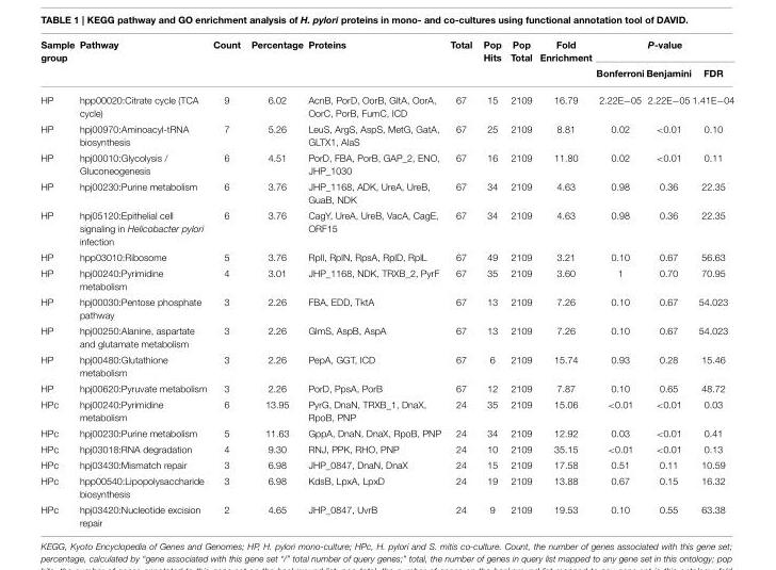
<table><thead><tr><td rowspan="2">Sample group</td><td rowspan="2">Pathway</td><td rowspan="2">Count</td><td rowspan="2">Percentage</td><td rowspan="2">Proteins</td><td rowspan="2">Total</td><td rowspan="2">Pop Hits</td><td rowspan="2">Pop Total</td><td rowspan="2">Fold Enrichment</td><td colspan="3">P-value</td></tr><tr><td>Bonferroni</td><td>Benjamini</td><td>FDR</td></tr></thead><tbody><tr><td>HP</td><td>hpp00020:Citrate cycle (TCA cycle)</td><td>9</td><td>6.02</td><td>AcnB, PorD, OorB, GltA, OorA, OorC, PorB, FumC, ICD</td><td>67</td><td>15</td><td>2109</td><td>16.79</td><td>2.22E−05</td><td>2.22E−05</td><td>1.41E−04</td></tr><tr><td>HP</td><td>hpj00970:Aminoacyl-tRNA biosynthesis</td><td>7</td><td>5.26</td><td>LeuS, ArgS, AspS, MetG, GatA, GLTX1, AlaS</td><td>67</td><td>25</td><td>2109</td><td>8.81</td><td>0.02</td><td>&lt;0.01</td><td>0.10</td></tr><tr><td>HP</td><td>hpj00010:Glycolysis / Gluconeogenesis</td><td>6</td><td>4.51</td><td>PorD, FBA, PorB, GAP_2, ENO, JHP_1030</td><td>67</td><td>16</td><td>2109</td><td>11.80</td><td>0.02</td><td>&lt;0.01</td><td>0.11</td></tr><tr><td>HP</td><td>hpj00230:Purine metabolism</td><td>6</td><td>3.76</td><td>JHP_1168, ADK, UreA, UreB, GuaB, NDK</td><td>67</td><td>34</td><td>2109</td><td>4.63</td><td>0.98</td><td>0.36</td><td>22.35</td></tr><tr><td>HP</td><td>hpj05120:Epithelial cell signaling in Helicobacter pylori infection</td><td>6</td><td>3.76</td><td>CagY, UreA, UreB, VacA, CagE, ORF15</td><td>67</td><td>34</td><td>2109</td><td>4.63</td><td>0.98</td><td>0.36</td><td>22.35</td></tr><tr><td>HP</td><td>hpp03010:Ribosome</td><td>5</td><td>3.76</td><td>RplI, RplN, RpsA, RplD, RplL</td><td>67</td><td>49</td><td>2109</td><td>3.21</td><td>0.10</td><td>0.67</td><td>56.63</td></tr><tr><td>HP</td><td>hpj00240:Pyrimidine metabolism</td><td>4</td><td>3.01</td><td>JHP_1168, NDK, TRXB_2, PyrF</td><td>67</td><td>35</td><td>2109</td><td>3.60</td><td>1</td><td>0.70</td><td>70.95</td></tr><tr><td>HP</td><td>hpj00030:Pentose phosphate pathway</td><td>3</td><td>2.26</td><td>FBA, EDD, TktA</td><td>67</td><td>13</td><td>2109</td><td>7.26</td><td>0.10</td><td>0.67</td><td>54.023</td></tr><tr><td>HP</td><td>hpj00250:Alanine, aspartate and glutamate metabolism</td><td>3</td><td>2.26</td><td>GlmS, AspB, AspA</td><td>67</td><td>13</td><td>2109</td><td>7.26</td><td>0.10</td><td>0.67</td><td>54.023</td></tr><tr><td>HP</td><td>hpj00480:Glutathione metabolism</td><td>3</td><td>2.26</td><td>PepA, GGT, ICD</td><td>67</td><td>6</td><td>2109</td><td>15.74</td><td>0.93</td><td>0.28</td><td>15.46</td></tr><tr><td>HP</td><td>hpj00620:Pyruvate metabolism</td><td>3</td><td>2.26</td><td>PorD, PpsA, PorB</td><td>67</td><td>12</td><td>2109</td><td>7.87</td><td>0.10</td><td>0.65</td><td>48.72</td></tr><tr><td>HPc</td><td>hpj00240:Pyrimidine metabolism</td><td>6</td><td>13.95</td><td>PyrG, DnaN, TRXB_1, DnaX, RpoB, PNP</td><td>24</td><td>35</td><td>2109</td><td>15.06</td><td>&lt;0.01</td><td>&lt;0.01</td><td>0.03</td></tr><tr><td>HPc</td><td>hpj00230:Purine metabolism</td><td>5</td><td>11.63</td><td>GppA, DnaN, DnaX, RpoB, PNP</td><td>24</td><td>34</td><td>2109</td><td>12.92</td><td>0.03</td><td>&lt;0.01</td><td>0.41</td></tr><tr><td>HPc</td><td>hpj03018:RNA degradation</td><td>4</td><td>9.30</td><td>RNJ, PPK, RHO, PNP</td><td>24</td><td>10</td><td>2109</td><td>35.15</td><td>&lt;0.01</td><td>&lt;0.01</td><td>0.13</td></tr><tr><td>HPc</td><td>hpj03430:Mismatch repair</td><td>3</td><td>6.98</td><td>JHP_0847, DnaN, DnaX</td><td>24</td><td>15</td><td>2109</td><td>17.58</td><td>0.51</td><td>0.11</td><td>10.59</td></tr><tr><td>HPc</td><td>hpp00540:Lipopolysaccharide biosynthesis</td><td>3</td><td>6.98</td><td>KdsB, LpxA, LpxD</td><td>24</td><td>19</td><td>2109</td><td>13.88</td><td>0.67</td><td>0.15</td><td>16.32</td></tr><tr><td>HPc</td><td>hpj03420:Nucleotide excision repair</td><td>2</td><td>4.65</td><td>JHP_0847, UvrB</td><td>24</td><td>9</td><td>2109</td><td>19.53</td><td>0.10</td><td>0.55</td><td>63.38</td></tr></tbody></table>